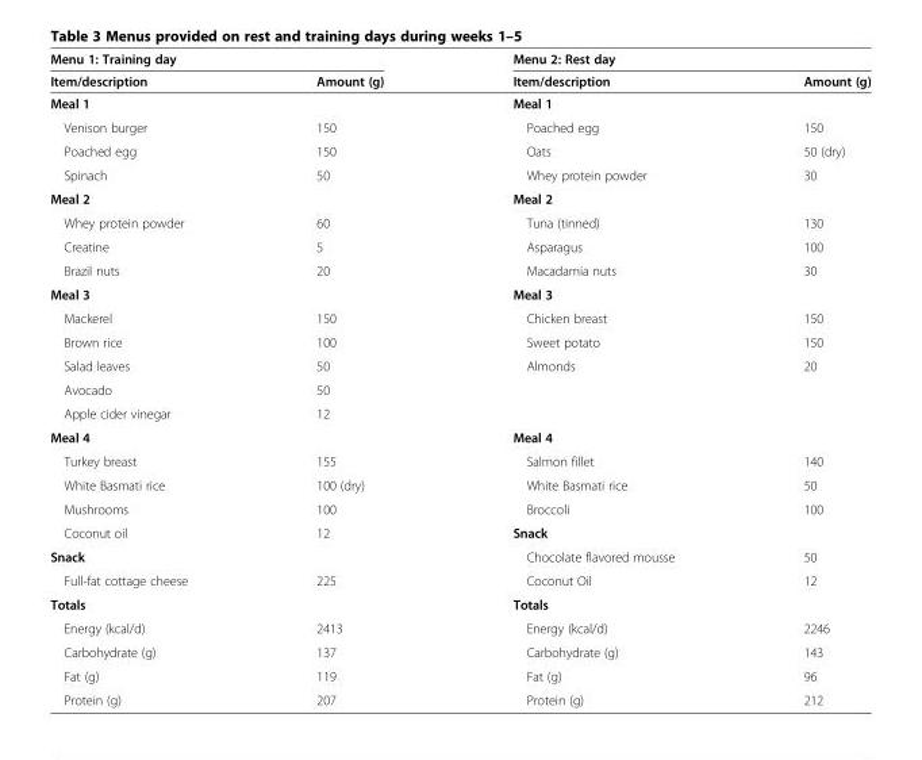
<table><thead><tr><td colspan="2">Menu 1: Training day</td><td colspan="2">Menu 2: Rest day</td></tr><tr><td>Item/description</td><td>Amount (g)</td><td>Item/description</td><td>Amount (g)</td></tr></thead><tbody><tr><td>Meal 1</td><td></td><td>Meal 1</td><td></td></tr><tr><td>Venison burger</td><td>150</td><td>Poached egg</td><td>150</td></tr><tr><td>Poached egg</td><td>150</td><td>Oats</td><td>50 (dry)</td></tr><tr><td>Spinach</td><td>50</td><td>Whey protein powder</td><td>30</td></tr><tr><td>Meal 2</td><td></td><td>Meal 2</td><td></td></tr><tr><td>Whey protein powder</td><td>60</td><td>Tuna (tinned)</td><td>130</td></tr><tr><td>Creatine</td><td>5</td><td>Asparagus</td><td>100</td></tr><tr><td>Brazil nuts</td><td>20</td><td>Macadamia nuts</td><td>30</td></tr><tr><td>Meal 3</td><td></td><td>Meal 3</td><td></td></tr><tr><td>Mackerel</td><td>150</td><td>Chicken breast</td><td>150</td></tr><tr><td>Brown rice</td><td>100</td><td>Sweet potato</td><td>150</td></tr><tr><td>Salad leaves</td><td>50</td><td rowspan="3">Almonds</td><td rowspan="3">20</td></tr><tr><td>Avocado</td><td>50</td></tr><tr><td>Apple cider vinegar</td><td>12</td></tr><tr><td>Meal 4</td><td></td><td>Meal 4</td><td></td></tr><tr><td>Turkey breast</td><td>155</td><td>Salmon fillet</td><td>140</td></tr><tr><td>White Basmati rice</td><td>100 (dry)</td><td>White Basmati rice</td><td>50</td></tr><tr><td>Mushrooms</td><td>100</td><td>Broccoli</td><td>100</td></tr><tr><td>Coconut oil</td><td>12</td><td>Snack</td><td></td></tr><tr><td>Snack</td><td></td><td>Chocolate flavored mousse</td><td>50</td></tr><tr><td>Full-fat cottage cheese</td><td>225</td><td>Coconut Oil</td><td>12</td></tr><tr><td>Totals</td><td></td><td>Totals</td><td></td></tr><tr><td>Energy (kcal/d)</td><td>2413</td><td>Energy (kcal/d)</td><td>2246</td></tr><tr><td>Carbohydrate (g)</td><td>137</td><td>Carbohydrate (g)</td><td>143</td></tr><tr><td>Fat (g)</td><td>119</td><td>Fat (g)</td><td>96</td></tr><tr><td>Protein (g)</td><td>207</td><td>Protein (g)</td><td>212</td></tr></tbody></table>